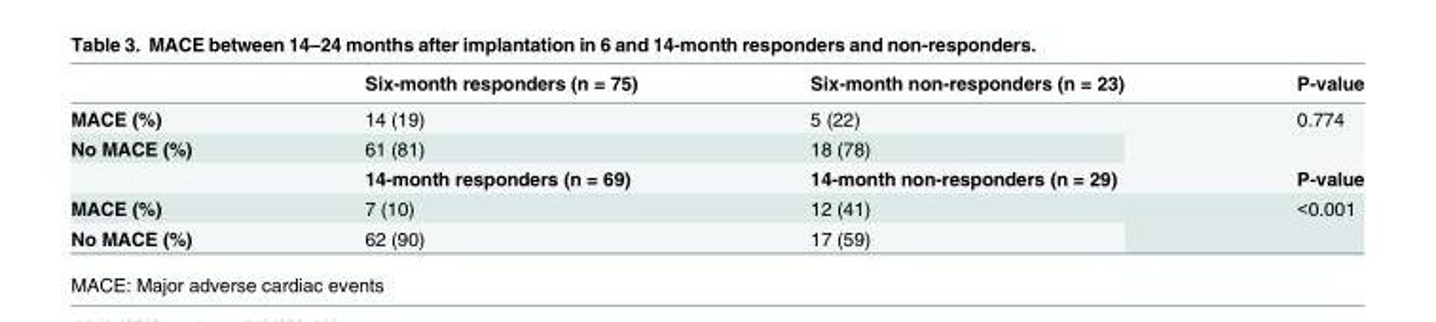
<table><thead><tr><td></td><td>Six-month responders (n = 75)</td><td>Six-month non-responders (n = 23)</td><td>P-value</td></tr></thead><tbody><tr><td>MACE (%)</td><td>14 (19)</td><td>5 (22)</td><td rowspan="2">0.774</td></tr><tr><td rowspan="2">No MACE (%)</td><td>61 (81)</td><td>18 (78)</td></tr><tr><td>14-month responders (n = 69)</td><td>14-month non-responders (n = 29)</td><td>P-value</td></tr><tr><td>MACE (%)</td><td>7 (10)</td><td>12 (41)</td><td rowspan="2">&lt;0.001</td></tr><tr><td>No MACE (%)</td><td>62 (90)</td><td>17 (59)</td></tr></tbody></table>